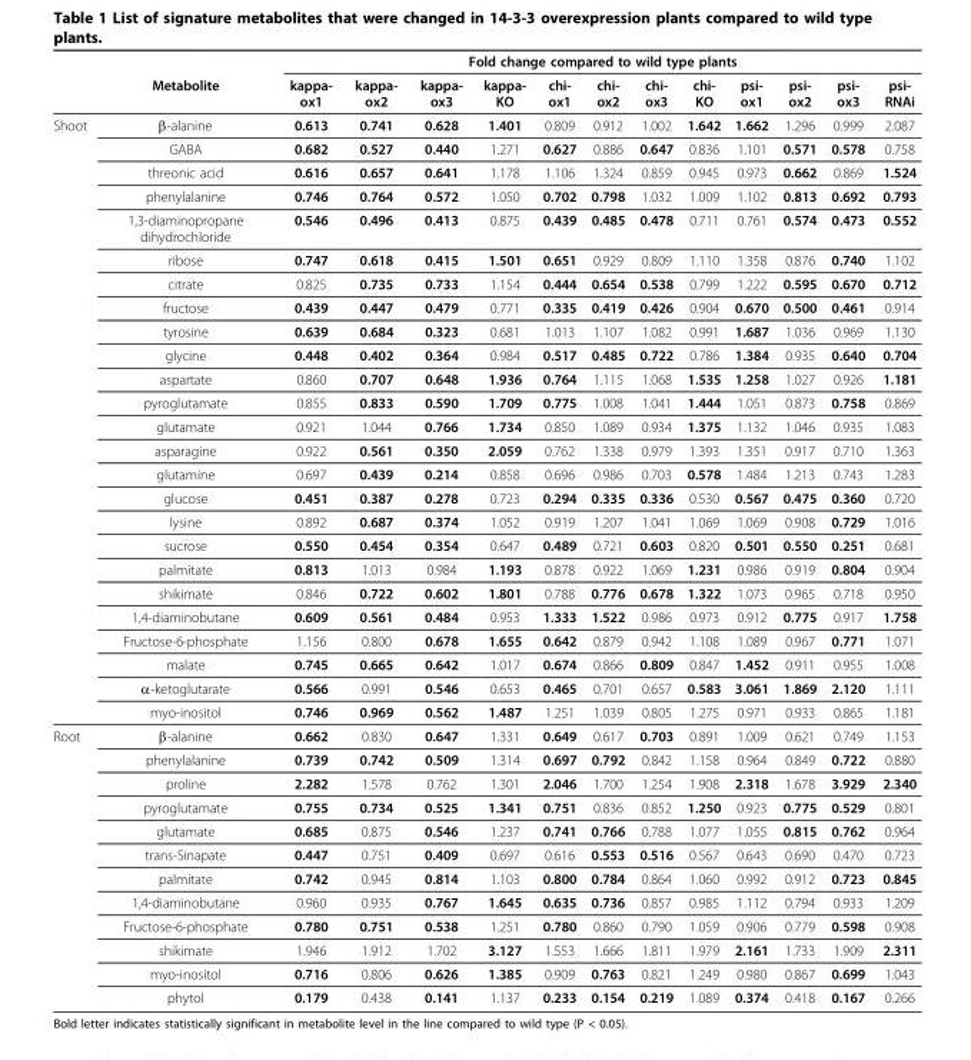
<table><thead><tr><td rowspan="2"></td><td rowspan="2">Metabolite</td><td colspan="12">Fold change compared to wild type plants</td></tr><tr><td>kappa- ox1</td><td>kappa- ox2</td><td>kappa- ox3</td><td>kappa- KO</td><td>chi- ox1</td><td>chi- ox2</td><td>chi- ox3</td><td>chi- KO</td><td>psi- ox1</td><td>psi- ox2</td><td>psi- ox3</td><td>psi- RNAi</td></tr></thead><tbody><tr><td rowspan="25">Shoot</td><td>β-alanine</td><td>0.613</td><td>0.741</td><td>0.628</td><td>1.401</td><td>0.809</td><td>0.912</td><td>1.002</td><td>1.642</td><td>1.662</td><td>1.296</td><td>0.999</td><td>2.087</td></tr><tr><td>GABA</td><td>0.682</td><td>0.527</td><td>0.440</td><td>1.271</td><td>0.627</td><td>0.886</td><td>0.647</td><td>0.836</td><td>1.101</td><td>0.571</td><td>0.578</td><td>0.758</td></tr><tr><td>threonic acid</td><td>0.616</td><td>0.657</td><td>0.641</td><td>1.178</td><td>1.106</td><td>1.324</td><td>0.859</td><td>0.945</td><td>0.973</td><td>0.662</td><td>0.869</td><td>1.524</td></tr><tr><td>phenylalanine</td><td>0.746</td><td>0.764</td><td>0.572</td><td>1.050</td><td>0.702</td><td>0.798</td><td>1.032</td><td>1.009</td><td>1.102</td><td>0.813</td><td>0.692</td><td>0.793</td></tr><tr><td>1,3-diaminopropane dihydrochloride</td><td>0.546</td><td>0.496</td><td>0.413</td><td>0.875</td><td>0.439</td><td>0.485</td><td>0.478</td><td>0.711</td><td>0.761</td><td>0.574</td><td>0.473</td><td>0.552</td></tr><tr><td>ribose</td><td>0.747</td><td>0.618</td><td>0.415</td><td>1.501</td><td>0.651</td><td>0.929</td><td>0.809</td><td>1.110</td><td>1.358</td><td>0.876</td><td>0.740</td><td>1.102</td></tr><tr><td>citrate</td><td>0.825</td><td>0.735</td><td>0.733</td><td>1.154</td><td>0.444</td><td>0.654</td><td>0.538</td><td>0.799</td><td>1.222</td><td>0.595</td><td>0.670</td><td>0.712</td></tr><tr><td>fructose</td><td>0.439</td><td>0.447</td><td>0.479</td><td>0.771</td><td>0.335</td><td>0.419</td><td>0.426</td><td>0.904</td><td>0.670</td><td>0.500</td><td>0.461</td><td>0.914</td></tr><tr><td>tyrosine</td><td>0.639</td><td>0.684</td><td>0.323</td><td>0.681</td><td>1.013</td><td>1.107</td><td>1.082</td><td>0.991</td><td>1.687</td><td>1.036</td><td>0.969</td><td>1.130</td></tr><tr><td>glycine</td><td>0.448</td><td>0.402</td><td>0.364</td><td>0.984</td><td>0.517</td><td>0.485</td><td>0.722</td><td>0.786</td><td>1.384</td><td>0.935</td><td>0.640</td><td>0.704</td></tr><tr><td>aspartate</td><td>0.860</td><td>0.707</td><td>0.648</td><td>1.936</td><td>0.764</td><td>1.115</td><td>1.068</td><td>1.535</td><td>1.258</td><td>1.027</td><td>0.926</td><td>1.181</td></tr><tr><td>pyroglutamate</td><td>0.855</td><td>0.833</td><td>0.590</td><td>1.709</td><td>0.775</td><td>1.008</td><td>1.041</td><td>1.444</td><td>1.051</td><td>0.873</td><td>0.758</td><td>0.869</td></tr><tr><td>glutamate</td><td>0.921</td><td>1.044</td><td>0.766</td><td>1.734</td><td>0.850</td><td>1.089</td><td>0.934</td><td>1.375</td><td>1.132</td><td>1.046</td><td>0.935</td><td>1.083</td></tr><tr><td>asparagine</td><td>0.922</td><td>0.561</td><td>0.350</td><td>2.059</td><td>0.762</td><td>1.338</td><td>0.979</td><td>1.393</td><td>1.351</td><td>0.917</td><td>0.710</td><td>1.363</td></tr><tr><td>glutamine</td><td>0.697</td><td>0.439</td><td>0.214</td><td>0.858</td><td>0.696</td><td>0.986</td><td>0.703</td><td>0.578</td><td>1.484</td><td>1.213</td><td>0.743</td><td>1.283</td></tr><tr><td>glucose</td><td>0.451</td><td>0.387</td><td>0.278</td><td>0.723</td><td>0.294</td><td>0.335</td><td>0.336</td><td>0.530</td><td>0.567</td><td>0.475</td><td>0.360</td><td>0.720</td></tr><tr><td>lysine</td><td>0.892</td><td>0.687</td><td>0.374</td><td>1.052</td><td>0.919</td><td>1.207</td><td>1.041</td><td>1.069</td><td>1.069</td><td>0.908</td><td>0.729</td><td>1.016</td></tr><tr><td>sucrose</td><td>0.550</td><td>0.454</td><td>0.354</td><td>0.647</td><td>0.489</td><td>0.721</td><td>0.603</td><td>0.820</td><td>0.501</td><td>0.550</td><td>0.251</td><td>0.681</td></tr><tr><td>palmitate</td><td>0.813</td><td>1.013</td><td>0.984</td><td>1.193</td><td>0.878</td><td>0.922</td><td>1.069</td><td>1.231</td><td>0.986</td><td>0.919</td><td>0.804</td><td>0.904</td></tr><tr><td>shikimate</td><td>0.846</td><td>0.722</td><td>0.602</td><td>1.801</td><td>0.788</td><td>0.776</td><td>0.678</td><td>1.322</td><td>1.073</td><td>0.965</td><td>0.718</td><td>0.950</td></tr><tr><td>1,4-diaminobutane</td><td>0.609</td><td>0.561</td><td>0.484</td><td>0.953</td><td>1.333</td><td>1.522</td><td>0.986</td><td>0.973</td><td>0.912</td><td>0.775</td><td>0.917</td><td>1.758</td></tr><tr><td>Fructose-6-phosphate</td><td>1.156</td><td>0.800</td><td>0.678</td><td>1.655</td><td>0.642</td><td>0.879</td><td>0.942</td><td>1.108</td><td>1.089</td><td>0.967</td><td>0.771</td><td>1.071</td></tr><tr><td>malate</td><td>0.745</td><td>0.665</td><td>0.642</td><td>1.017</td><td>0.674</td><td>0.866</td><td>0.809</td><td>0.847</td><td>1.452</td><td>0.911</td><td>0.955</td><td>1.008</td></tr><tr><td>α-ketoglutarate</td><td>0.566</td><td>0.991</td><td>0.546</td><td>0.653</td><td>0.465</td><td>0.701</td><td>0.657</td><td>0.583</td><td>3.061</td><td>1.869</td><td>2.120</td><td>1.111</td></tr><tr><td>myo-inositol</td><td>0.746</td><td>0.969</td><td>0.562</td><td>1.487</td><td>1.251</td><td>1.039</td><td>0.805</td><td>1.275</td><td>0.971</td><td>0.933</td><td>0.865</td><td>1.181</td></tr><tr><td rowspan="12">Root</td><td>β-alanine</td><td>0.662</td><td>0.830</td><td>0.647</td><td>1.331</td><td>0.649</td><td>0.617</td><td>0.703</td><td>0.891</td><td>1.009</td><td>0.621</td><td>0.749</td><td>1.153</td></tr><tr><td>phenylalanine</td><td>0.739</td><td>0.742</td><td>0.509</td><td>1.314</td><td>0.697</td><td>0.792</td><td>0.842</td><td>1.158</td><td>0.964</td><td>0.849</td><td>0.722</td><td>0.880</td></tr><tr><td>proline</td><td>2.282</td><td>1.578</td><td>0.762</td><td>1.301</td><td>2.046</td><td>1.700</td><td>1.254</td><td>1.908</td><td>2.318</td><td>1.678</td><td>3.929</td><td>2.340</td></tr><tr><td>pyroglutamate</td><td>0.755</td><td>0.734</td><td>0.525</td><td>1.341</td><td>0.751</td><td>0.836</td><td>0.852</td><td>1.250</td><td>0.923</td><td>0.775</td><td>0.529</td><td>0.801</td></tr><tr><td>glutamate</td><td>0.685</td><td>0.875</td><td>0.546</td><td>1.237</td><td>0.741</td><td>0.766</td><td>0.788</td><td>1.077</td><td>1.055</td><td>0.815</td><td>0.762</td><td>0.964</td></tr><tr><td>trans-Sinapate</td><td>0.447</td><td>0.751</td><td>0.409</td><td>0.697</td><td>0.616</td><td>0.553</td><td>0.516</td><td>0.567</td><td>0.643</td><td>0.690</td><td>0.470</td><td>0.723</td></tr><tr><td>palmitate</td><td>0.742</td><td>0.945</td><td>0.814</td><td>1.103</td><td>0.800</td><td>0.784</td><td>0.864</td><td>1.060</td><td>0.992</td><td>0.912</td><td>0.723</td><td>0.845</td></tr><tr><td>1,4-diaminobutane</td><td>0.960</td><td>0.935</td><td>0.767</td><td>1.645</td><td>0.635</td><td>0.736</td><td>0.857</td><td>0.985</td><td>1.112</td><td>0.794</td><td>0.933</td><td>1.209</td></tr><tr><td>Fructose-6-phosphate</td><td>0.780</td><td>0.751</td><td>0.538</td><td>1.251</td><td>0.780</td><td>0.860</td><td>0.790</td><td>1.059</td><td>0.906</td><td>0.779</td><td>0.598</td><td>0.908</td></tr><tr><td>shikimate</td><td>1.946</td><td>1.912</td><td>1.702</td><td>3.127</td><td>1.553</td><td>1.666</td><td>1.811</td><td>1.979</td><td>2.161</td><td>1.733</td><td>1.909</td><td>2.311</td></tr><tr><td>myo-inositol</td><td>0.716</td><td>0.806</td><td>0.626</td><td>1.385</td><td>0.909</td><td>0.763</td><td>0.821</td><td>1.249</td><td>0.980</td><td>0.867</td><td>0.699</td><td>1.043</td></tr><tr><td>phytol</td><td>0.179</td><td>0.438</td><td>0.141</td><td>1.137</td><td>0.233</td><td>0.154</td><td>0.219</td><td>1.089</td><td>0.374</td><td>0.418</td><td>0.167</td><td>0.266</td></tr></tbody></table>